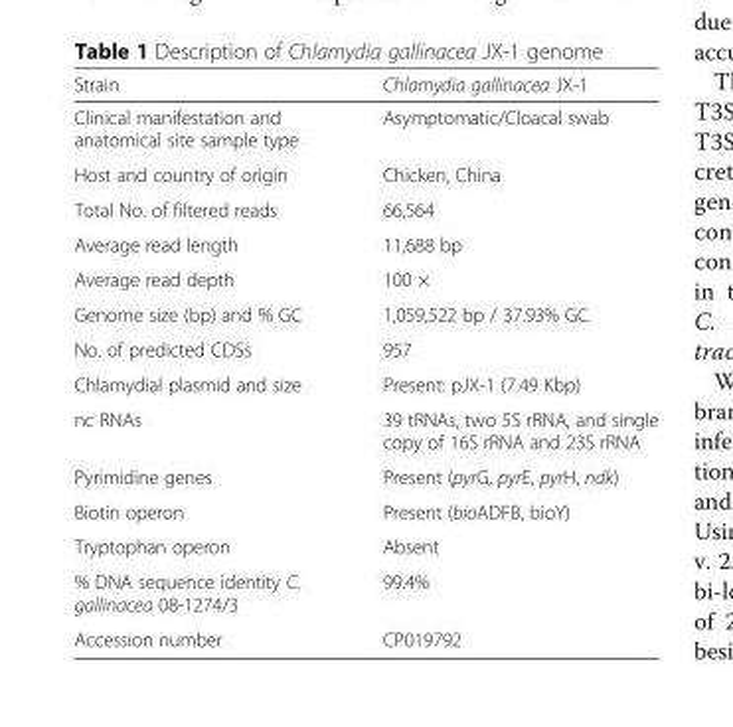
<table><thead><tr><td>Strain</td><td>Chlamydia gallinacea JX-1</td></tr></thead><tbody><tr><td>Clinical manifestation and anatomical site sample type</td><td>Asymptomatic/Cloacal swab</td></tr><tr><td>Host and country of origin</td><td>Chicken, China</td></tr><tr><td>Total No. of filtered reads</td><td>66,564</td></tr><tr><td>Average read length</td><td>11,688 bp</td></tr><tr><td>Average read depth</td><td>100 ×</td></tr><tr><td>Genome size (bp) and % GC</td><td>1,059,522 bp / 37.93% GC</td></tr><tr><td>No. of predicted CDSs</td><td>957</td></tr><tr><td>Chlamydial plasmid and size</td><td>Present: pJX-1 (7.49 Kbp)</td></tr><tr><td>nc RNAs</td><td>39 tRNAs, two 5S rRNA, and single copy of 16S rRNA and 23S rRNA</td></tr><tr><td>Pyrimidine genes</td><td>Present (pyrG, pyrE, pyrH, ndk)</td></tr><tr><td>Biotin operon</td><td>Present (bioADFB, bioY)</td></tr><tr><td>Tryptophan operon</td><td>Absent</td></tr><tr><td>% DNA sequence identity C. gallinacea 08-1274/3</td><td>99.4%</td></tr><tr><td>Accession number</td><td>CP019792</td></tr></tbody></table>